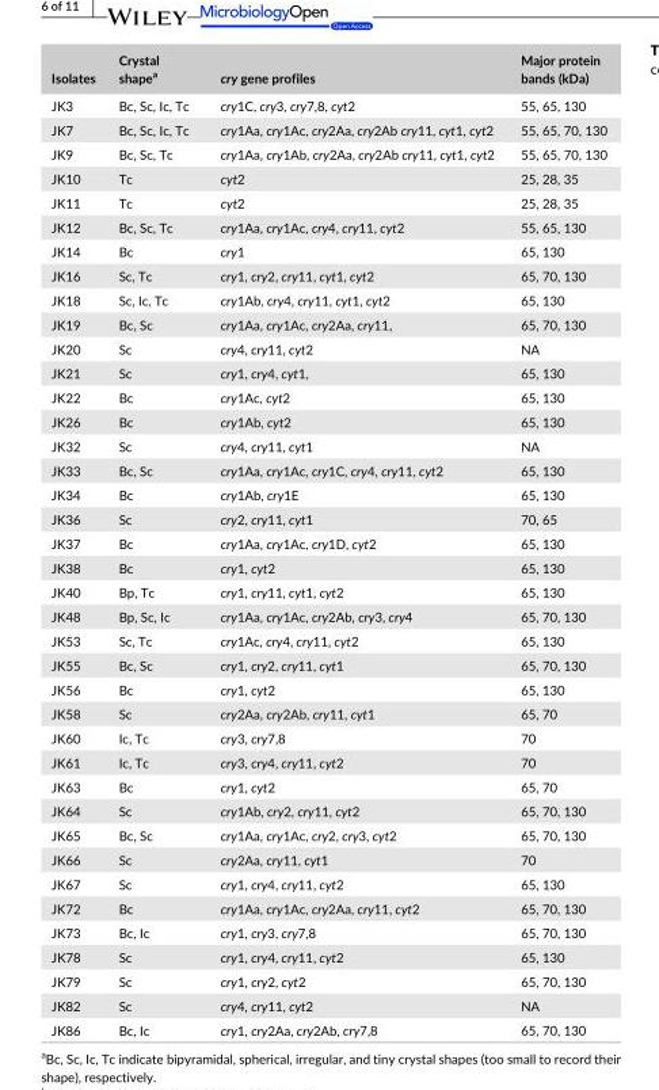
<table><thead><tr><td>Isolates</td><td>Crystal shape<sup>a</sup></td><td>cry gene profiles</td><td>Major protein bands (kDa)</td></tr></thead><tbody><tr><td>JK3</td><td>Bc, Sc, Ic, Tc</td><td>cry1C, cry3, cry7,8, cyt2</td><td>55, 65, 130</td></tr><tr><td>JK7</td><td>Bc, Sc, Ic, Tc</td><td>cry1Aa, cry1Ac, cry2Aa, cry2Ab cry11, cyt1, cyt2</td><td>55, 65, 70, 130</td></tr><tr><td>JK9</td><td>Bc, Sc, Tc</td><td>cry1Aa, cry1Ab, cry2Aa, cry2Ab cry11, cyt1, cyt2</td><td>55, 65, 70, 130</td></tr><tr><td>JK10</td><td>Tc</td><td>cyt2</td><td>25, 28, 35</td></tr><tr><td>JK11</td><td>Tc</td><td>cyt2</td><td>25, 28, 35</td></tr><tr><td>JK12</td><td>Bc, Sc, Tc</td><td>cry1Aa, cry1Ac, cry4, cry11, cyt2</td><td>55, 65, 130</td></tr><tr><td>JK14</td><td>Bc</td><td>cry1</td><td>65, 130</td></tr><tr><td>JK16</td><td>Sc, Tc</td><td>cry1, cry2, cry11, cyt1, cyt2</td><td>65, 70, 130</td></tr><tr><td>JK18</td><td>Sc, Ic, Tc</td><td>cry1Ab, cry4, cry11, cyt1, cyt2</td><td>65, 130</td></tr><tr><td>JK19</td><td>Bc, Sc</td><td>cry1Aa, cry1Ac, cry2Aa, cry11,</td><td>65, 70, 130</td></tr><tr><td>JK20</td><td>Sc</td><td>cry4, cry11, cyt2</td><td>NA</td></tr><tr><td>JK21</td><td>Sc</td><td>cry1, cry4, cyt1,</td><td>65, 130</td></tr><tr><td>JK22</td><td>Bc</td><td>cry1Ac, cyt2</td><td>65, 130</td></tr><tr><td>JK26</td><td>Bc</td><td>cry1Ab, cyt2</td><td>65, 130</td></tr><tr><td>JK32</td><td>Sc</td><td>cry4, cry11, cyt1</td><td>NA</td></tr><tr><td>JK33</td><td>Bc, Sc</td><td>cry1Aa, cry1Ac, cry1C, cry4, cry11, cyt2</td><td>65, 130</td></tr><tr><td>JK34</td><td>Bc</td><td>cry1Ab, cry1E</td><td>65, 130</td></tr><tr><td>JK36</td><td>Sc</td><td>cry2, cry11, cyt1</td><td>70, 65</td></tr><tr><td>JK37</td><td>Bc</td><td>cry1Aa, cry1Ac, cry1D, cyt2</td><td>65, 130</td></tr><tr><td>JK38</td><td>Bc</td><td>cry1, cyt2</td><td>65, 130</td></tr><tr><td>JK40</td><td>Bp, Tc</td><td>cry1, cry11, cyt1, cyt2</td><td>65, 130</td></tr><tr><td>JK48</td><td>Bp, Sc, Ic</td><td>cry1Aa, cry1Ac, cry2Ab, cry3, cry4</td><td>65, 70, 130</td></tr><tr><td>JK53</td><td>Sc, Tc</td><td>cry1Ac, cry4, cry11, cyt2</td><td>65, 130</td></tr><tr><td>JK55</td><td>Bc, Sc</td><td>cry1, cry2, cry11, cyt1</td><td>65, 70, 130</td></tr><tr><td>JK56</td><td>Bc</td><td>cry1, cyt2</td><td>65, 130</td></tr><tr><td>JK58</td><td>Sc</td><td>cry2Aa, cry2Ab, cry11, cyt1</td><td>65, 70</td></tr><tr><td>JK60</td><td>Ic, Tc</td><td>cry3, cry7,8</td><td>70</td></tr><tr><td>JK61</td><td>Ic, Tc</td><td>cry3, cry4, cry11, cyt2</td><td>70</td></tr><tr><td>JK63</td><td>Bc</td><td>cry1, cyt2</td><td>65, 70</td></tr><tr><td>JK64</td><td>Sc</td><td>cry1Ab, cry2, cry11, cyt2</td><td>65, 70, 130</td></tr><tr><td>JK65</td><td>Bc, Sc</td><td>cry1Aa, cry1Ac, cry2, cry3, cyt2</td><td>65, 70, 130</td></tr><tr><td>JK66</td><td>Sc</td><td>cry2Aa, cry11, cyt1</td><td>70</td></tr><tr><td>JK67</td><td>Sc</td><td>cry1, cry4, cry11, cyt2</td><td>65, 130</td></tr><tr><td>JK72</td><td>Bc</td><td>cry1Aa, cry1Ac, cry2Aa, cry11, cyt2</td><td>65, 70, 130</td></tr><tr><td>JK73</td><td>Bc, Ic</td><td>cry1, cry3, cry7,8</td><td>65, 70, 130</td></tr><tr><td>JK78</td><td>Sc</td><td>cry1, cry4, cry11, cyt2</td><td>65, 130</td></tr><tr><td>JK79</td><td>Sc</td><td>cry1, cry2, cyt2</td><td>65, 70, 130</td></tr><tr><td>JK82</td><td>Sc</td><td>cry4, cry11, cyt2</td><td>NA</td></tr><tr><td>JK86</td><td>Bc, Ic</td><td>cry1, cry2Aa, cry2Ab, cry7,8</td><td>65, 70, 130</td></tr></tbody></table>